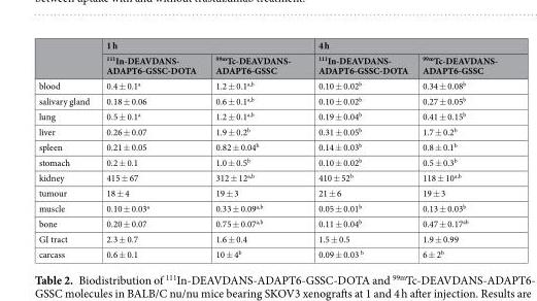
<table><thead><tr><td rowspan="2"></td><td colspan="2">1 h</td><td colspan="2">4 h</td></tr><tr><td><sup>111</sup>In-DEAVDANS- ADAPT6-GSSC-DOTA</td><td><sup>99m</sup>Tc-DEAVDANS- ADAPT6-GSSC</td><td><sup>111</sup>In-DEAVDANS- ADAPT6-GSSC-DOTA</td><td><sup>99m</sup>Tc-DEAVDANS- ADAPT6-GSSC</td></tr></thead><tbody><tr><td>blood</td><td>0.4 ± 0.1<sup>a</sup></td><td>1.2 ± 0.1<sup>a,b</sup></td><td>0.10 ± 0.02<sup>b</sup></td><td>0.34 ± 0.08<sup>b</sup></td></tr><tr><td>salivary gland</td><td>0.18 ± 0.06</td><td>0.6 ± 0.1<sup>a,b</sup></td><td>0.10 ± 0.02<sup>b</sup></td><td>0.27 ± 0.05<sup>b</sup></td></tr><tr><td>lung</td><td>0.5 ± 0.1<sup>a</sup></td><td>1.2 ± 0.1<sup>a,b</sup></td><td>0.19 ± 0.04<sup>b</sup></td><td>0.41 ± 0.15<sup>b</sup></td></tr><tr><td>liver</td><td>0.26 ± 0.07</td><td>1.9 ± 0.2<sup>b</sup></td><td>0.31 ± 0.05<sup>b</sup></td><td>1.7 ± 0.2<sup>b</sup></td></tr><tr><td>spleen</td><td>0.21 ± 0.05</td><td>0.82 ± 0.04<sup>b</sup></td><td>0.14 ± 0.03<sup>b</sup></td><td>0.8 ± 0.1<sup>b</sup></td></tr><tr><td>stomach</td><td>0.2 ± 0.1</td><td>1.0 ± 0.5<sup>b</sup></td><td>0.10 ± 0.02<sup>b</sup></td><td>0.5 ± 0.3<sup>b</sup></td></tr><tr><td>kidney</td><td>415 ± 67</td><td>312 ± 12<sup>a,b</sup></td><td>410 ± 52<sup>b</sup></td><td>118 ± 10<sup>a,b</sup></td></tr><tr><td>tumour</td><td>18 ± 4</td><td>19 ± 3</td><td>21 ± 6</td><td>19 ± 3</td></tr><tr><td>muscle</td><td>0.10 ± 0.03<sup>a</sup></td><td>0.33 ± 0.09<sup>a,b</sup></td><td>0.05 ± 0.01<sup>b</sup></td><td>0.13 ± 0.03<sup>b</sup></td></tr><tr><td>bone</td><td>0.20 ± 0.07</td><td>0.75 ± 0.07<sup>a,b</sup></td><td>0.11 ± 0.04<sup>b</sup></td><td>0.47 ± 0.17<sup>ab</sup></td></tr><tr><td>GI tract</td><td>2.3 ± 0.7</td><td>1.6 ± 0.4</td><td>1.5 ± 0.5</td><td>1.9 ± 0.99</td></tr><tr><td>carcass</td><td>0.6 ± 0.1</td><td>10 ± 4<sup>b</sup></td><td>0.09 ± 0.03 <sup>b</sup></td><td>6 ± 2<sup>b</sup></td></tr></tbody></table>